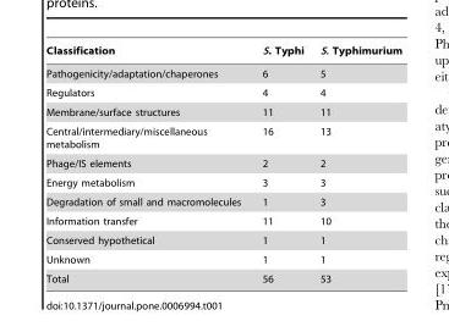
<table><thead><tr><td>Classification</td><td>S. Typhi</td><td>S. Typhimurium</td></tr></thead><tbody><tr><td>Pathogenicity/adaptation/chaperones</td><td>6</td><td>5</td></tr><tr><td>Regulators</td><td>4</td><td>4</td></tr><tr><td>Membrane/surface structures</td><td>11</td><td>11</td></tr><tr><td>Central/intermediary/miscellaneous metabolism</td><td>16</td><td>13</td></tr><tr><td>Phage/IS elements</td><td>2</td><td>2</td></tr><tr><td>Energy metabolism</td><td>3</td><td>3</td></tr><tr><td>Degradation of small and macromolecules</td><td>1</td><td>3</td></tr><tr><td>Information transfer</td><td>11</td><td>10</td></tr><tr><td>Conserved hypothetical</td><td>1</td><td>1</td></tr><tr><td>Unknown</td><td>1</td><td>1</td></tr><tr><td>Total</td><td>56</td><td>53</td></tr></tbody></table>